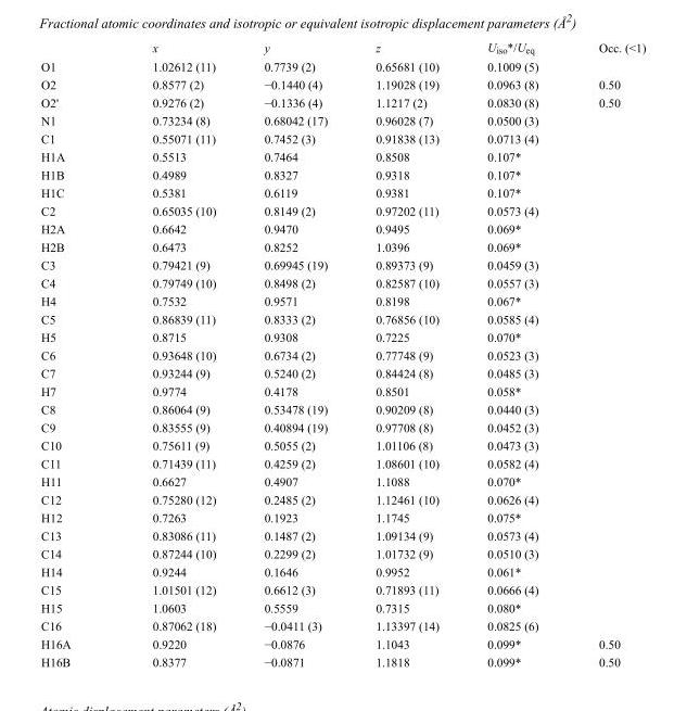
<table><thead><tr><td></td><td>x</td><td>y</td><td>z</td><td>U<sub>iso</sub>*/U<sub>eq</sub></td><td>Occ. (&lt;1)</td></tr></thead><tbody><tr><td>O1</td><td>1.02612 (11)</td><td>0.7739 (2)</td><td>0.65681 (10)</td><td>0.1009 (5)</td><td></td></tr><tr><td>O2</td><td>0.8577 (2)</td><td>−0.1440 (4)</td><td>1.19028 (19)</td><td>0.0963 (8)</td><td>0.50</td></tr><tr><td>O2&#x27;</td><td>0.9276 (2)</td><td>−0.1336 (4)</td><td>1.1217 (2)</td><td>0.0830 (8)</td><td>0.50</td></tr><tr><td>N1</td><td>0.73234 (8)</td><td>0.68042 (17)</td><td>0.96028 (7)</td><td>0.0500 (3)</td><td></td></tr><tr><td>C1</td><td>0.55071 (11)</td><td>0.7452 (3)</td><td>0.91838 (13)</td><td>0.0713 (4)</td><td></td></tr><tr><td>H1A</td><td>0.5513</td><td>0.7464</td><td>0.8508</td><td>0.107*</td><td></td></tr><tr><td>H1B</td><td>0.4989</td><td>0.8327</td><td>0.9318</td><td>0.107*</td><td></td></tr><tr><td>H1C</td><td>0.5381</td><td>0.6119</td><td>0.9381</td><td>0.107*</td><td></td></tr><tr><td>C2</td><td>0.65035 (10)</td><td>0.8149 (2)</td><td>0.97202 (11)</td><td>0.0573 (4)</td><td></td></tr><tr><td>H2A</td><td>0.6642</td><td>0.9470</td><td>0.9495</td><td>0.069*</td><td></td></tr><tr><td>H2B</td><td>0.6473</td><td>0.8252</td><td>1.0396</td><td>0.069*</td><td></td></tr><tr><td>C3</td><td>0.79421 (9)</td><td>0.69945 (19)</td><td>0.89373 (9)</td><td>0.0459 (3)</td><td></td></tr><tr><td>C4</td><td>0.79749 (10)</td><td>0.8498 (2)</td><td>0.82587 (10)</td><td>0.0557 (3)</td><td></td></tr><tr><td>H4</td><td>0.7532</td><td>0.9571</td><td>0.8198</td><td>0.067*</td><td></td></tr><tr><td>C5</td><td>0.86839 (11)</td><td>0.8333 (2)</td><td>0.76856 (10)</td><td>0.0585 (4)</td><td></td></tr><tr><td>H5</td><td>0.8715</td><td>0.9308</td><td>0.7225</td><td>0.070*</td><td></td></tr><tr><td>C6</td><td>0.93648 (10)</td><td>0.6734 (2)</td><td>0.77748 (9)</td><td>0.0523 (3)</td><td></td></tr><tr><td>C7</td><td>0.93244 (9)</td><td>0.5240 (2)</td><td>0.84424 (8)</td><td>0.0485 (3)</td><td></td></tr><tr><td>H7</td><td>0.9774</td><td>0.4178</td><td>0.8501</td><td>0.058*</td><td></td></tr><tr><td>C8</td><td>0.86064 (9)</td><td>0.53478 (19)</td><td>0.90209 (8)</td><td>0.0440 (3)</td><td></td></tr><tr><td>C9</td><td>0.83555 (9)</td><td>0.40894 (19)</td><td>0.97708 (8)</td><td>0.0452 (3)</td><td></td></tr><tr><td>C10</td><td>0.75611 (9)</td><td>0.5055 (2)</td><td>1.01106 (8)</td><td>0.0473 (3)</td><td></td></tr><tr><td>C11</td><td>0.71439 (11)</td><td>0.4259 (2)</td><td>1.08601 (10)</td><td>0.0582 (4)</td><td></td></tr><tr><td>H11</td><td>0.6627</td><td>0.4907</td><td>1.1088</td><td>0.070*</td><td></td></tr><tr><td>C12</td><td>0.75280 (12)</td><td>0.2485 (2)</td><td>1.12461 (10)</td><td>0.0626 (4)</td><td></td></tr><tr><td>H12</td><td>0.7263</td><td>0.1923</td><td>1.1745</td><td>0.075*</td><td></td></tr><tr><td>C13</td><td>0.83086 (11)</td><td>0.1487 (2)</td><td>1.09134 (9)</td><td>0.0573 (4)</td><td></td></tr><tr><td>C14</td><td>0.87244 (10)</td><td>0.2299 (2)</td><td>1.01732 (9)</td><td>0.0510 (3)</td><td></td></tr><tr><td>H14</td><td>0.9244</td><td>0.1646</td><td>0.9952</td><td>0.061*</td><td></td></tr><tr><td>C15</td><td>1.01501 (12)</td><td>0.6612 (3)</td><td>0.71893 (11)</td><td>0.0666 (4)</td><td></td></tr><tr><td>H15</td><td>1.0603</td><td>0.5559</td><td>0.7315</td><td>0.080*</td><td></td></tr><tr><td>C16</td><td>0.87062 (18)</td><td>−0.0411 (3)</td><td>1.13397 (14)</td><td>0.0825 (6)</td><td></td></tr><tr><td>H16A</td><td>0.9220</td><td>−0.0876</td><td>1.1043</td><td>0.099*</td><td>0.50</td></tr><tr><td>H16B</td><td>0.8377</td><td>−0.0871</td><td>1.1818</td><td>0.099*</td><td>0.50</td></tr></tbody></table>